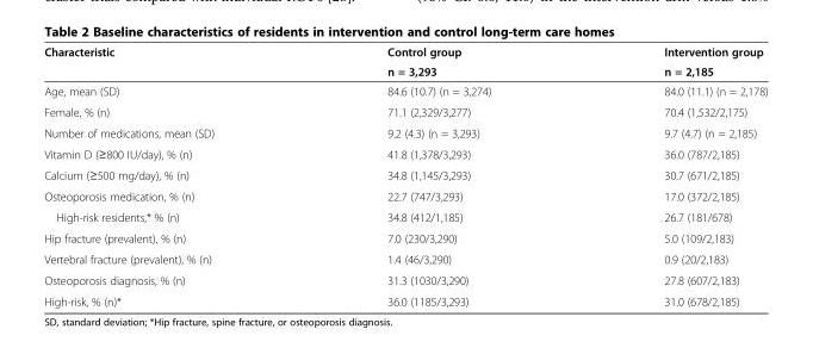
<table><thead><tr><td rowspan="2">Characteristic</td><td rowspan="2">Control group n = 3,293</td><td rowspan="2">Intervention group n = 2,185</td></tr><tr></tr></thead><tbody><tr><td>Age, mean (SD)</td><td>84.6 (10.7) (n = 3,274)</td><td>84.0 (11.1) (n = 2,178)</td></tr><tr><td>Female, % (n)</td><td>71.1 (2,329/3,277)</td><td>70.4 (1,532/2,175)</td></tr><tr><td>Number of medications, mean (SD)</td><td>9.2 (4.3) (n = 3,293)</td><td>9.7 (4.7) (n = 2,185)</td></tr><tr><td>Vitamin D (≥800 IU/day), % (n)</td><td>41.8 (1,378/3,293)</td><td>36.0 (787/2,185)</td></tr><tr><td>Calcium (≥500 mg/day), % (n)</td><td>34.8 (1,145/3,293)</td><td>30.7 (671/2,185)</td></tr><tr><td>Osteoporosis medication, % (n)</td><td>22.7 (747/3,293)</td><td>17.0 (372/2,185)</td></tr><tr><td>High-risk residents,* % (n)</td><td>34.8 (412/1,185)</td><td>26.7 (181/678)</td></tr><tr><td>Hip fracture (prevalent), % (n)</td><td>7.0 (230/3,290)</td><td>5.0 (109/2,183)</td></tr><tr><td>Vertebral fracture (prevalent), % (n)</td><td>1.4 (46/3,290)</td><td>0.9 (20/2,183)</td></tr><tr><td>Osteoporosis diagnosis, % (n)</td><td>31.3 (1030/3,290)</td><td>27.8 (607/2,183)</td></tr><tr><td>High-risk, % (n)*</td><td>36.0 (1185/3,293)</td><td>31.0 (678/2,185)</td></tr></tbody></table>